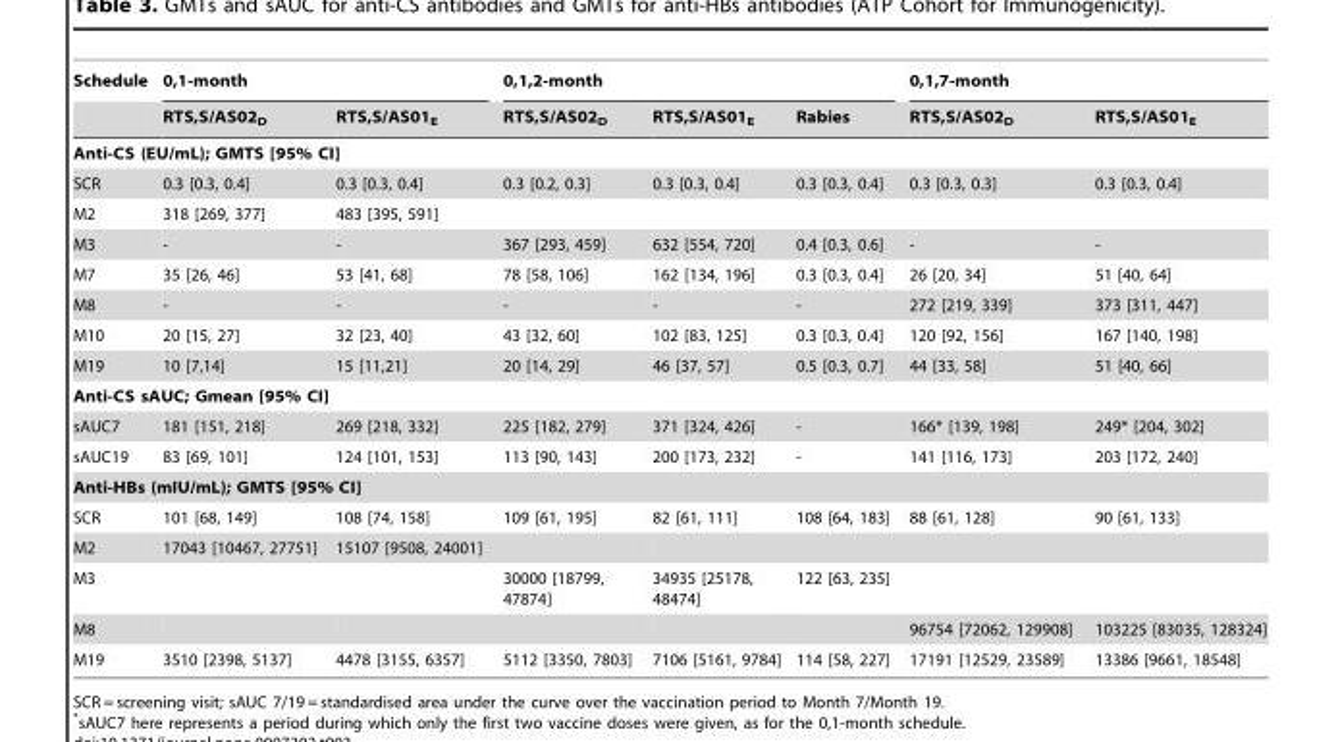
<table><thead><tr><td rowspan="2">Schedule</td><td colspan="2">0,1-month</td><td colspan="3">0,1,2-month</td><td colspan="2">0,1,7-month</td></tr><tr><td>RTS,S/AS02<sub>D</sub></td><td>RTS,S/AS01<sub>E</sub></td><td>RTS,S/AS02<sub>D</sub></td><td>RTS,S/AS01<sub>E</sub></td><td>Rabies</td><td>RTS,S/AS02<sub>D</sub></td><td>RTS,S/AS01<sub>E</sub></td></tr></thead><tbody><tr><td colspan="8">Anti-CS (EU/mL); GMTS [95% CI]</td></tr><tr><td>SCR</td><td>0.3 [0.3, 0.4]</td><td>0.3 [0.3, 0.4]</td><td>0.3 [0.2, 0.3]</td><td>0.3 [0.3, 0.4]</td><td>0.3 [0.3, 0.4]</td><td>0.3 [0.3, 0.3]</td><td>0.3 [0.3, 0.4]</td></tr><tr><td>M2</td><td>318 [269, 377]</td><td>483 [395, 591]</td><td></td><td></td><td></td><td></td><td></td></tr><tr><td>M3</td><td>-</td><td>-</td><td>367 [293, 459]</td><td>632 [554, 720]</td><td>0.4 [0.3, 0.6]</td><td>-</td><td>-</td></tr><tr><td>M7</td><td>35 [26, 46]</td><td>53 [41, 68]</td><td>78 [58, 106]</td><td>162 [134, 196]</td><td>0.3 [0.3, 0.4]</td><td>26 [20, 34]</td><td>51 [40, 64]</td></tr><tr><td>M8</td><td>-</td><td>-</td><td>-</td><td>-</td><td>-</td><td>272 [219, 339]</td><td>373 [311, 447]</td></tr><tr><td>M10</td><td>20 [15, 27]</td><td>32 [23, 40]</td><td>43 [32, 60]</td><td>102 [83, 125]</td><td>0.3 [0.3, 0.4]</td><td>120 [92, 156]</td><td>167 [140, 198]</td></tr><tr><td>M19</td><td>10 [7,14]</td><td>15 [11,21]</td><td>20 [14, 29]</td><td>46 [37, 57]</td><td>0.5 [0.3, 0.7]</td><td>44 [33, 58]</td><td>51 [40, 66]</td></tr><tr><td colspan="8">Anti-CS sAUC; Gmean [95% CI]</td></tr><tr><td>sAUC7</td><td>181 [151, 218]</td><td>269 [218, 332]</td><td>225 [182, 279]</td><td>371 [324, 426]</td><td>-</td><td>166* [139, 198]</td><td>249* [204, 302]</td></tr><tr><td>sAUC19</td><td>83 [69, 101]</td><td>124 [101, 153]</td><td>113 [90, 143]</td><td>200 [173, 232]</td><td>-</td><td>141 [116, 173]</td><td>203 [172, 240]</td></tr><tr><td colspan="8">Anti-HBs (mIU/mL); GMTS [95% CI]</td></tr><tr><td>SCR</td><td>101 [68, 149]</td><td>108 [74, 158]</td><td>109 [61, 195]</td><td>82 [61, 111]</td><td>108 [64, 183]</td><td>88 [61, 128]</td><td>90 [61, 133]</td></tr><tr><td>M2</td><td>17043 [10467, 27751]</td><td>15107 [9508, 24001]</td><td></td><td></td><td></td><td></td><td></td></tr><tr><td>M3</td><td></td><td></td><td>30000 [18799, 47874]</td><td>34935 [25178, 48474]</td><td>122 [63, 235]</td><td></td><td></td></tr><tr><td>M8</td><td></td><td></td><td></td><td></td><td></td><td>96754 [72062, 129908]</td><td>103225 [83035, 128324]</td></tr><tr><td>M19</td><td>3510 [2398, 5137]</td><td>4478 [3155, 6357]</td><td>5112 [3350, 7803]</td><td>7106 [5161, 9784]</td><td>114 [58, 227]</td><td>17191 [12529, 23589]</td><td>13386 [9661, 18548]</td></tr></tbody></table>